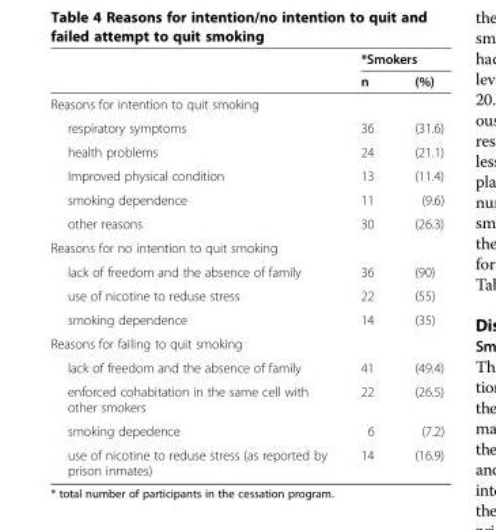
<table><thead><tr><td rowspan="2"></td><td colspan="2">*Smokers</td></tr><tr><td>n</td><td>(%)</td></tr></thead><tbody><tr><td colspan="3">Reasons for intention to quit smoking</td></tr><tr><td>respiratory symptoms</td><td>36</td><td>(31.6)</td></tr><tr><td>health problems</td><td>24</td><td>(21.1)</td></tr><tr><td>Improved physical condition</td><td>13</td><td>(11.4)</td></tr><tr><td>smoking dependence</td><td>11</td><td>(9.6)</td></tr><tr><td>other reasons</td><td>30</td><td>(26.3)</td></tr><tr><td colspan="3">Reasons for no intention to quit smoking</td></tr><tr><td>lack of freedom and the absence of family</td><td>36</td><td>(90)</td></tr><tr><td>use of nicotine to reduse stress</td><td>22</td><td>(55)</td></tr><tr><td>smoking dependence</td><td>14</td><td>(35)</td></tr><tr><td colspan="3">Reasons for failing to quit smoking</td></tr><tr><td>lack of freedom and the absence of family</td><td>41</td><td>(49.4)</td></tr><tr><td>enforced cohabitation in the same cell with other smokers</td><td>22</td><td>(26.5)</td></tr><tr><td>smoking depedence</td><td>6</td><td>(7.2)</td></tr><tr><td>use of nicotine to reduse stress (as reported by prison inmates)</td><td>14</td><td>(16.9)</td></tr></tbody></table>